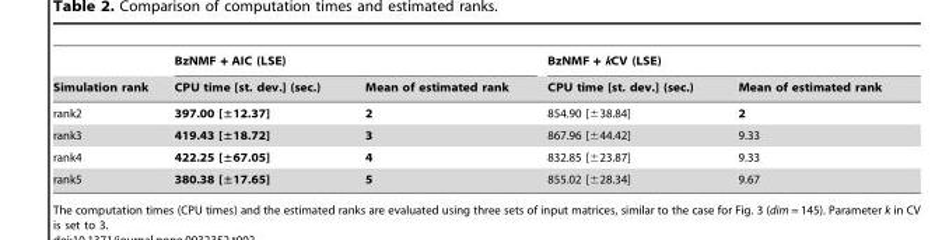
<table><thead><tr><td rowspan="2">Simulation rank</td><td colspan="2">BzNMF + AIC (LSE)</td><td colspan="2">BzNMF + kCV (LSE)</td></tr><tr><td>CPU time [st. dev.] (sec.)</td><td>Mean of estimated rank</td><td>CPU time [st. dev.] (sec.)</td><td>Mean of estimated rank</td></tr></thead><tbody><tr><td>rank2</td><td>397.00 [±12.37]</td><td>2</td><td>854.90 [±38.84]</td><td>2</td></tr><tr><td>rank3</td><td>419.43 [±18.72]</td><td>3</td><td>867.96 [±44.42]</td><td>9.33</td></tr><tr><td>rank4</td><td>422.25 [±67.05]</td><td>4</td><td>832.85 [±23.87]</td><td>9.33</td></tr><tr><td>rank5</td><td>380.38 [±17.65]</td><td>5</td><td>855.02 [±28.34]</td><td>9.67</td></tr></tbody></table>